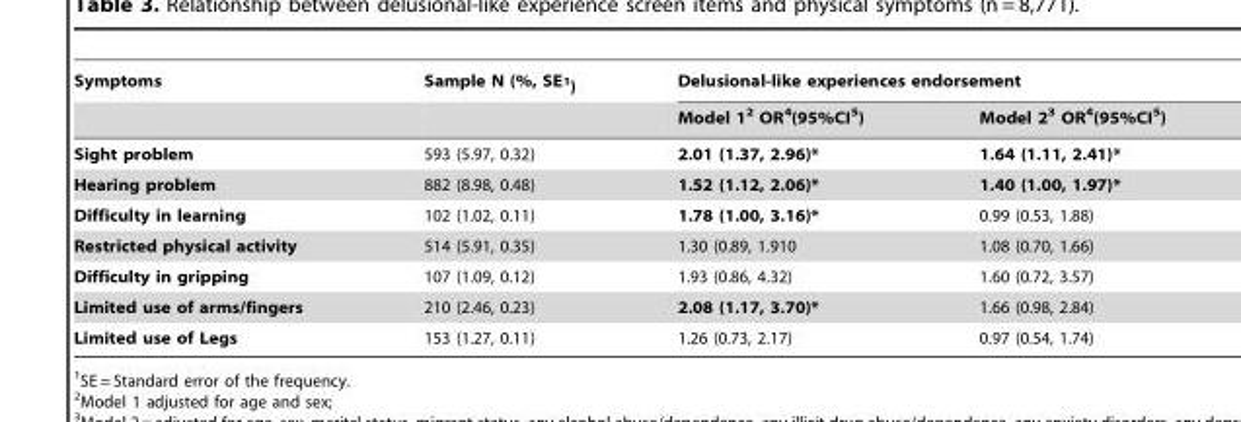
<table><thead><tr><td rowspan="2">Symptoms</td><td rowspan="2">Sample N (%, SE<sup>1</sup>)</td><td colspan="2">Delusional-like experiences endorsement</td></tr><tr><td>Model 1<sup>2</sup> OR<sup>4</sup>(95%CI<sup>5</sup>)</td><td>Model 2<sup>3</sup> OR<sup>4</sup>(95%CI<sup>5</sup>)</td></tr></thead><tbody><tr><td>Sight problem</td><td>593 (5.97, 0.32)</td><td>2.01 (1.37, 2.96)*</td><td>1.64 (1.11, 2.41)*</td></tr><tr><td>Hearing problem</td><td>882 (8.98, 0.48)</td><td>1.52 (1.12, 2.06)*</td><td>1.40 (1.00, 1.97)*</td></tr><tr><td>Difficulty in learning</td><td>102 (1.02, 0.11)</td><td>1.78 (1.00, 3.16)*</td><td>0.99 (0.53, 1.88)</td></tr><tr><td>Restricted physical activity</td><td>514 (5.91, 0.35)</td><td>1.30 (0.89, 1.910</td><td>1.08 (0.70, 1.66)</td></tr><tr><td>Difficulty in gripping</td><td>107 (1.09, 0.12)</td><td>1.93 (0.86, 4.32)</td><td>1.60 (0.72, 3.57)</td></tr><tr><td>Limited use of arms/fingers</td><td>210 (2.46, 0.23)</td><td>2.08 (1.17, 3.70)*</td><td>1.66 (0.98, 2.84)</td></tr><tr><td>Limited use of Legs</td><td>153 (1.27, 0.11)</td><td>1.26 (0.73, 2.17)</td><td>0.97 (0.54, 1.74)</td></tr></tbody></table>